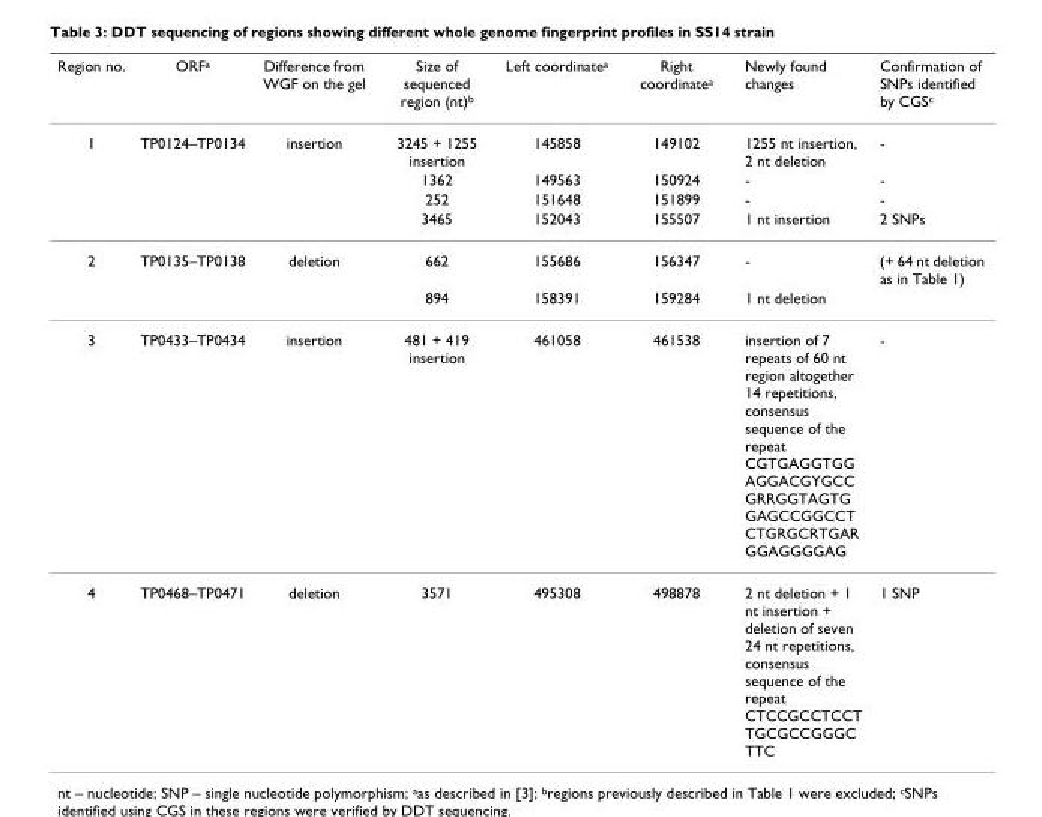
<table><thead><tr><td>Region no.</td><td>ORF<sup>a</sup></td><td>Difference from WGF on the gel</td><td>Size of sequenced region (nt)<sup>b</sup></td><td>Left coordinate<sup>a</sup></td><td>Right coordinate<sup>a</sup></td><td>Newly found changes</td><td>Confirmation of SNPs identified by CGS<sup>c</sup></td></tr></thead><tbody><tr><td rowspan="4">1</td><td>TP0124–TP0134</td><td>insertion</td><td>3245 + 1255 insertion</td><td>145858</td><td>149102</td><td>1255 nt insertion, 2 nt deletion</td><td>-</td></tr><tr><td></td><td></td><td>1362</td><td>149563</td><td>150924</td><td>-</td><td>-</td></tr><tr><td></td><td></td><td>252</td><td>151648</td><td>151899</td><td>-</td><td>-</td></tr><tr><td></td><td></td><td>3465</td><td>152043</td><td>155507</td><td>1 nt insertion</td><td>2 SNPs</td></tr><tr><td rowspan="2">2</td><td>TP0135–TP0138</td><td>deletion</td><td>662</td><td>155686</td><td>156347</td><td>-</td><td>(+ 64 nt deletion as in Table 1)</td></tr><tr><td></td><td></td><td>894</td><td>158391</td><td>159284</td><td>1 nt deletion</td><td></td></tr><tr><td>3</td><td>TP0433–TP0434</td><td>insertion</td><td>481 + 419 insertion</td><td>461058</td><td>461538</td><td>insertion of 7 repeats of 60 nt region altogether 14 repetitions, consensus sequence of the repeat CGTGAGGTGG AGGACGYGCC GRRGGTAGTG GAGCCGGCCT CTGRGCRTGAR GGAGGGGAG</td><td>-</td></tr><tr><td>4</td><td>TP0468–TP0471</td><td>deletion</td><td>3571</td><td>495308</td><td>498878</td><td>2 nt deletion + 1 nt insertion + deletion of seven 24 nt repetitions, consensus sequence of the repeat CTCCGCCTCCT TGCGCCGGGC TTC</td><td>1 SNP</td></tr></tbody></table>